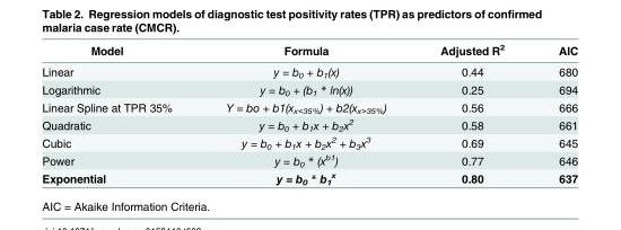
<table><thead><tr><td>Model</td><td>Formula</td><td>Adjusted R<sup>2</sup></td><td>AIC</td></tr></thead><tbody><tr><td>Linear</td><td>y = b<sub>0</sub> + b<sub>1</sub>(x)</td><td>0.44</td><td>680</td></tr><tr><td>Logarithmic</td><td>y = b<sub>0</sub> + (b<sub>1</sub> * ln(x))</td><td>0.25</td><td>694</td></tr><tr><td>Linear Spline at TPR 35%</td><td>Y = bo + b1(x<sub>x&lt;35%</sub>) + b2(x<sub>x&gt;35%</sub>)</td><td>0.56</td><td>666</td></tr><tr><td>Quadratic</td><td>y = b<sub>0</sub> + b<sub>1</sub>x + b<sub>2</sub>x<sup>2</sup></td><td>0.58</td><td>661</td></tr><tr><td>Cubic</td><td>y = b<sub>0</sub> + b<sub>1</sub>x + b<sub>2</sub>x<sup>2</sup> + b<sub>3</sub>x<sup>3</sup></td><td>0.69</td><td>645</td></tr><tr><td>Power</td><td>y = b<sub>0</sub> * (x<sup>b1</sup>)</td><td>0.77</td><td>646</td></tr><tr><td>Exponential</td><td>y = b<sub>0</sub> * b<sub>1</sub> <sup>x</sup></td><td>0.80</td><td>637</td></tr></tbody></table>